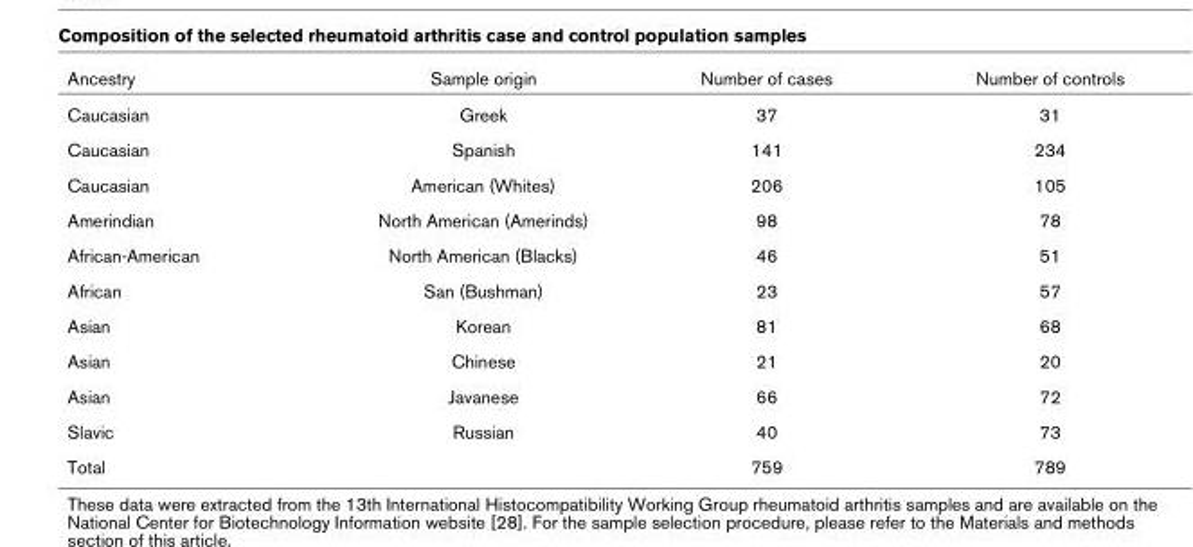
<table><thead><tr><td>Ancestry</td><td>Sample origin</td><td>Number of cases</td><td>Number of controls</td></tr></thead><tbody><tr><td>Caucasian</td><td>Greek</td><td>37</td><td>31</td></tr><tr><td>Caucasian</td><td>Spanish</td><td>141</td><td>234</td></tr><tr><td>Caucasian</td><td>American (Whites)</td><td>206</td><td>105</td></tr><tr><td>Amerindian</td><td>North American (Amerinds)</td><td>98</td><td>78</td></tr><tr><td>African-American</td><td>North American (Blacks)</td><td>46</td><td>51</td></tr><tr><td>African</td><td>San (Bushman)</td><td>23</td><td>57</td></tr><tr><td>Asian</td><td>Korean</td><td>81</td><td>68</td></tr><tr><td>Asian</td><td>Chinese</td><td>21</td><td>20</td></tr><tr><td>Asian</td><td>Javanese</td><td>66</td><td>72</td></tr><tr><td>Slavic</td><td>Russian</td><td>40</td><td>73</td></tr><tr><td>Total</td><td></td><td>759</td><td>789</td></tr></tbody></table>